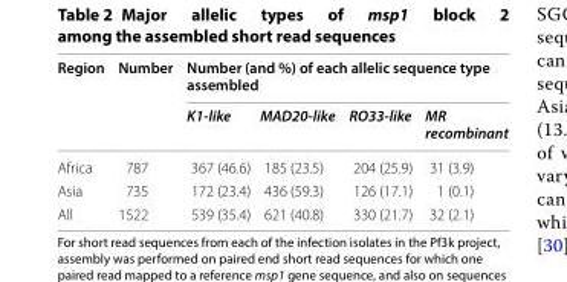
<table><thead><tr><td rowspan="2">Region</td><td rowspan="2">Number</td><td colspan="4">Number (and %) of each allelic sequence type assembled</td></tr><tr><td>K1‑like</td><td>MAD20‑like</td><td>RO33‑like</td><td>MR recombinant</td></tr></thead><tbody><tr><td>Africa</td><td>787</td><td>367 (46.6)</td><td>185 (23.5)</td><td>204 (25.9)</td><td>31 (3.9)</td></tr><tr><td>Asia</td><td>735</td><td>172 (23.4)</td><td>436 (59.3)</td><td>126 (17.1)</td><td>1 (0.1)</td></tr><tr><td>All</td><td>1522</td><td>539 (35.4)</td><td>621 (40.8)</td><td>330 (21.7)</td><td>32 (2.1)</td></tr></tbody></table>